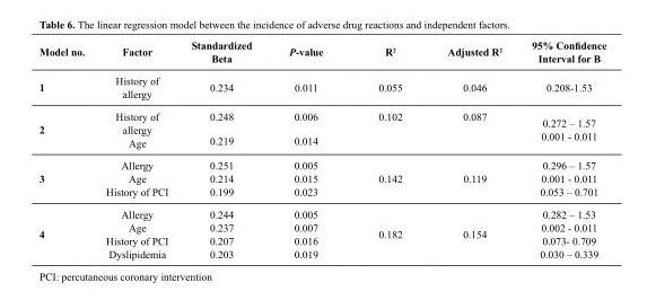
<table><thead><tr><td>Model no.</td><td>Factor</td><td>Standardized Beta</td><td>P-value</td><td>R<sup>2</sup></td><td>Adjusted R<sup>2</sup></td><td>95% Confidence Interval for B</td></tr></thead><tbody><tr><td>1</td><td>History of allergy</td><td>0.234</td><td>0.011</td><td>0.055</td><td>0.046</td><td>0.208-1.53</td></tr><tr><td>2</td><td>History of allergy Age</td><td>0.248 0.219</td><td>0.006 0.014</td><td>0.102</td><td>0.087</td><td>0.272 – 1.57 0.001 - 0.011</td></tr><tr><td>3</td><td>Allergy Age History of PCI</td><td>0.251 0.214 0.199</td><td>0.005 0.015 0.023</td><td>0.142</td><td>0.119</td><td>0.296 – 1.57 0.001 - 0.011 0.053 – 0.701</td></tr><tr><td>4</td><td>Allergy Age History of PCI Dyslipidemia</td><td>0.244 0.237 0.207 0.203</td><td>0.005 0.007 0.016 0.019</td><td>0.182</td><td>0.154</td><td>0.282 – 1.53 0.002 - 0.011 0.073- 0.709 0.030 – 0.339</td></tr></tbody></table>